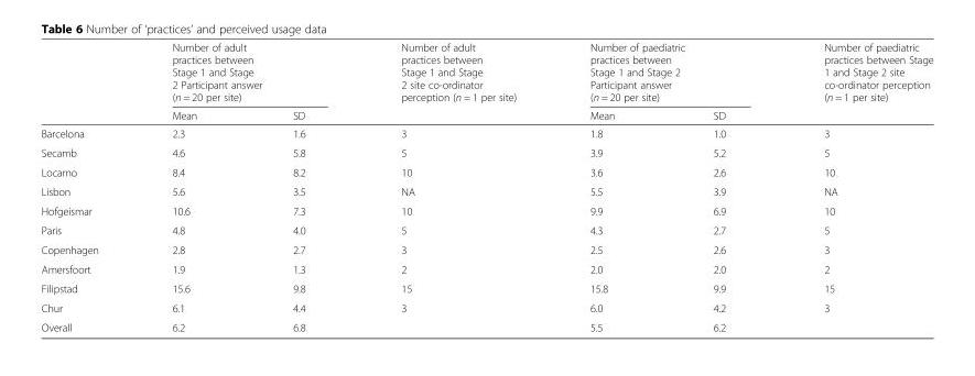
<table><thead><tr><td rowspan="2"></td><td colspan="2">Number of adult practices between Stage 1 and Stage 2 Participant answer (n = 20 per site)</td><td rowspan="2">Number of adult practices between Stage 1 and Stage 2 site co-ordinator perception (n = 1 per site)</td><td colspan="2">Number of paediatric practices between Stage 1 and Stage 2 Participant answer (n = 20 per site)</td><td rowspan="2">Number of paediatric practices between Stage 1 and Stage 2 site co-ordinator perception (n = 1 per site)</td></tr><tr><td>Mean</td><td>SD</td><td>Mean</td><td>SD</td></tr></thead><tbody><tr><td>Barcelona</td><td>2.3</td><td>1.6</td><td>3</td><td>1.8</td><td>1.0</td><td>3</td></tr><tr><td>Secamb</td><td>4.6</td><td>5.8</td><td>5</td><td>3.9</td><td>5.2</td><td>5</td></tr><tr><td>Locarno</td><td>8.4</td><td>8.2</td><td>10</td><td>3.6</td><td>2.6</td><td>10</td></tr><tr><td>Lisbon</td><td>5.6</td><td>3.5</td><td>NA</td><td>5.5</td><td>3.9</td><td>NA</td></tr><tr><td>Hofgeismar</td><td>10.6</td><td>7.3</td><td>10</td><td>9.9</td><td>6.9</td><td>10</td></tr><tr><td>Paris</td><td>4.8</td><td>4.0</td><td>5</td><td>4.3</td><td>2.7</td><td>5</td></tr><tr><td>Copenhagen</td><td>2.8</td><td>2.7</td><td>3</td><td>2.5</td><td>2.6</td><td>3</td></tr><tr><td>Amersfoort</td><td>1.9</td><td>1.3</td><td>2</td><td>2.0</td><td>2.0</td><td>2</td></tr><tr><td>Filipstad</td><td>15.6</td><td>9.8</td><td>15</td><td>15.8</td><td>9.9</td><td>15</td></tr><tr><td>Chur</td><td>6.1</td><td>4.4</td><td>3</td><td>6.0</td><td>4.2</td><td>3</td></tr><tr><td>Overall</td><td>6.2</td><td>6.8</td><td></td><td>5.5</td><td>6.2</td><td></td></tr></tbody></table>